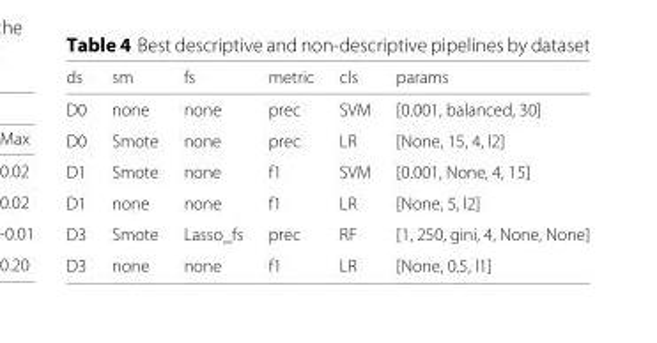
<table><thead><tr><td>ds</td><td>sm</td><td>fs</td><td>metric</td><td>cls</td><td>params</td></tr></thead><tbody><tr><td>D0</td><td>none</td><td>none</td><td>prec</td><td>SVM</td><td>[0.001, balanced, 30]</td></tr><tr><td>D0</td><td>Smote</td><td>none</td><td>prec</td><td>LR</td><td>[None, 15, 4, l2]</td></tr><tr><td>D1</td><td>Smote</td><td>none</td><td>f1</td><td>SVM</td><td>[0.001, None, 4, 15]</td></tr><tr><td>D1</td><td>none</td><td>none</td><td>f1</td><td>LR</td><td>[None, 5, l2]</td></tr><tr><td>D3</td><td>Smote</td><td>Lasso_fs</td><td>prec</td><td>RF</td><td>[1, 250, gini, 4, None, None]</td></tr><tr><td>D3</td><td>none</td><td>none</td><td>f1</td><td>LR</td><td>[None, 0.5, l1]</td></tr></tbody></table>